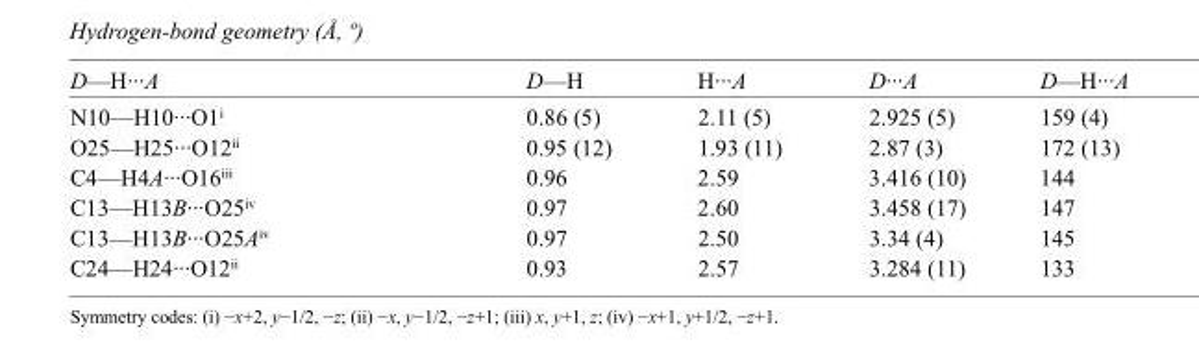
<table><tbody><tr><td>D—H···A</td><td>D—H</td><td>H···A</td><td>D···A</td><td>D—H···A</td></tr><tr><td>N10—H10···O1<sup>i</sup></td><td>0.86 (5)</td><td>2.11 (5)</td><td>2.925 (5)</td><td>159 (4)</td></tr><tr><td>O25—H25···O12<sup>ii</sup></td><td>0.95 (12)</td><td>1.93 (11)</td><td>2.87 (3)</td><td>172 (13)</td></tr><tr><td>C4—H4A···O16<sup>iii</sup></td><td>0.96</td><td>2.59</td><td>3.416 (10)</td><td>144</td></tr><tr><td>C13—H13B···O25<sup>iv</sup></td><td>0.97</td><td>2.60</td><td>3.458 (17)</td><td>147</td></tr><tr><td>C13—H13B···O25A<sup>iv</sup></td><td>0.97</td><td>2.50</td><td>3.34 (4)</td><td>145</td></tr><tr><td>C24—H24···O12<sup>ii</sup></td><td>0.93</td><td>2.57</td><td>3.284 (11)</td><td>133</td></tr></tbody></table>